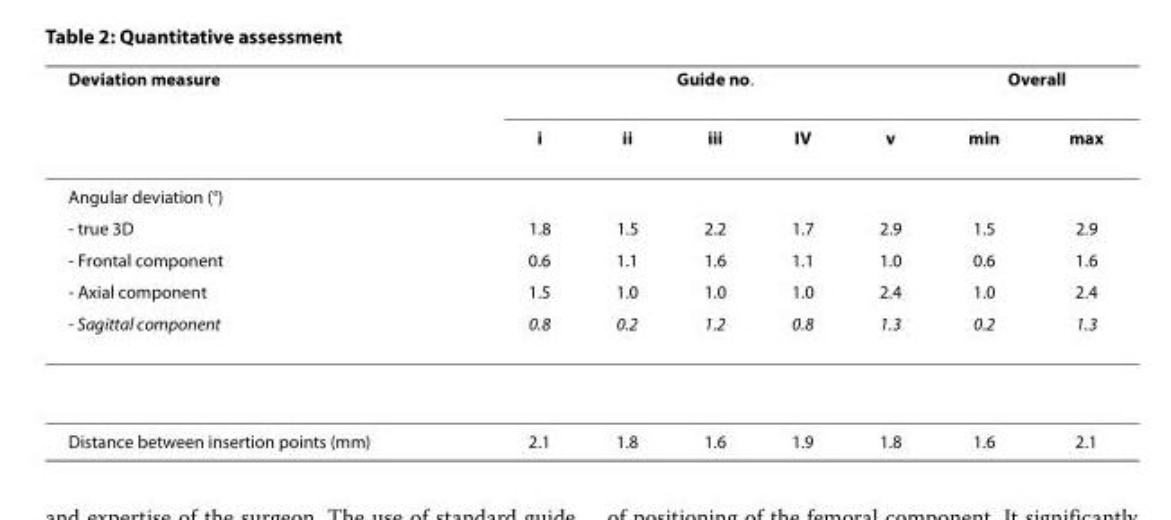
<table><thead><tr><td rowspan="2">Deviation measure</td><td colspan="5">Guide no.</td><td colspan="2">Overall</td></tr><tr><td>i</td><td>ii</td><td>iii</td><td>IV</td><td>v</td><td>min</td><td>max</td></tr></thead><tbody><tr><td colspan="8">Angular deviation (°)</td></tr><tr><td>- true 3D</td><td>1.8</td><td>1.5</td><td>2.2</td><td>1.7</td><td>2.9</td><td>1.5</td><td>2.9</td></tr><tr><td>- Frontal component</td><td>0.6</td><td>1.1</td><td>1.6</td><td>1.1</td><td>1.0</td><td>0.6</td><td>1.6</td></tr><tr><td>- Axial component</td><td>1.5</td><td>1.0</td><td>1.0</td><td>1.0</td><td>2.4</td><td>1.0</td><td>2.4</td></tr><tr><td>- Sagittal component</td><td>0.8</td><td>0.2</td><td>1.2</td><td>0.8</td><td>1.3</td><td>0.2</td><td>1.3</td></tr><tr><td>Distance between insertion points (mm)</td><td>2.1</td><td>1.8</td><td>1.6</td><td>1.9</td><td>1.8</td><td>1.6</td><td>2.1</td></tr></tbody></table>